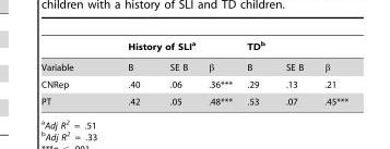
<table><thead><tr><td rowspan="2">Variable</td><td colspan="3">History of SLI<sup>a</sup></td><td colspan="3">TD<sup>b</sup></td></tr><tr><td>B</td><td>SE B</td><td>β</td><td>B</td><td>SE B</td><td>β</td></tr></thead><tbody><tr><td>CNRep</td><td>.40</td><td>.06</td><td>.36***</td><td>.29</td><td>.13</td><td>.21</td></tr><tr><td>PT</td><td>.42</td><td>.05</td><td>.48***</td><td>.53</td><td>.07</td><td>.45***</td></tr></tbody></table>